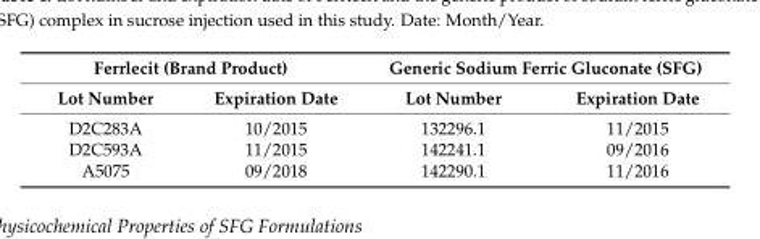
<table><thead><tr><td colspan="2">Ferrlecit (Brand Product)</td><td colspan="2">Generic Sodium Ferric Gluconate (SFG)</td></tr><tr><td>Lot Number</td><td>Expiration Date</td><td>Lot Number</td><td>Expiration Date</td></tr></thead><tbody><tr><td>D2C283A</td><td>10/2015</td><td>132296.1</td><td>11/2015</td></tr><tr><td>D2C593A</td><td>11/2015</td><td>142241.1</td><td>09/2016</td></tr><tr><td>A5075</td><td>09/2018</td><td>142290.1</td><td>11/2016</td></tr></tbody></table>